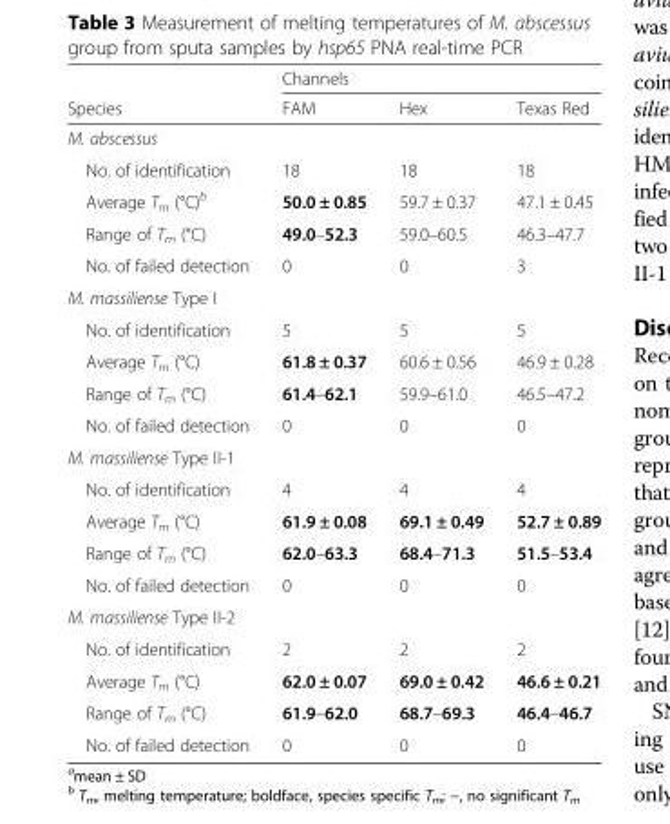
<table><thead><tr><td rowspan="2">Species</td><td colspan="3">Channels</td></tr><tr><td>FAM</td><td>Hex</td><td>Texas Red</td></tr></thead><tbody><tr><td colspan="4">M. abscessus</td></tr><tr><td>No. of identification</td><td>18</td><td>18</td><td>18</td></tr><tr><td>Average T<sub>m</sub> (°C)<sup>b</sup></td><td>50.0 ± 0.85</td><td>59.7 ± 0.37</td><td>47.1 ± 0.45</td></tr><tr><td>Range of T<sub>m</sub> (°C)</td><td>49.0–52.3</td><td>59.0–60.5</td><td>46.3–47.7</td></tr><tr><td>No. of failed detection</td><td>0</td><td>0</td><td>3</td></tr><tr><td colspan="4">M. massiliense Type I</td></tr><tr><td>No. of identification</td><td>5</td><td>5</td><td>5</td></tr><tr><td>Average T<sub>m</sub> (°C)</td><td>61.8 ± 0.37</td><td>60.6 ± 0.56</td><td>46.9 ± 0.28</td></tr><tr><td>Range of T<sub>m</sub> (°C)</td><td>61.4–62.1</td><td>59.9–61.0</td><td>46.5–47.2</td></tr><tr><td>No. of failed detection</td><td>0</td><td>0</td><td>0</td></tr><tr><td colspan="4">M. massiliense Type II-1</td></tr><tr><td>No. of identification</td><td>4</td><td>4</td><td>4</td></tr><tr><td>Average T<sub>m</sub> (°C)</td><td>61.9 ± 0.08</td><td>69.1 ± 0.49</td><td>52.7 ± 0.89</td></tr><tr><td>Range of T<sub>m</sub> (°C)</td><td>62.0–63.3</td><td>68.4–71.3</td><td>51.5–53.4</td></tr><tr><td>No. of failed detection</td><td>0</td><td>0</td><td>0</td></tr><tr><td colspan="4">M. massiliense Type II-2</td></tr><tr><td>No. of identification</td><td>2</td><td>2</td><td>2</td></tr><tr><td>Average T<sub>m</sub> (°C)</td><td>62.0 ± 0.07</td><td>69.0 ± 0.42</td><td>46.6 ± 0.21</td></tr><tr><td>Range of T<sub>m</sub> (°C)</td><td>61.9–62.0</td><td>68.7–69.3</td><td>46.4–46.7</td></tr><tr><td>No. of failed detection</td><td>0</td><td>0</td><td>0</td></tr></tbody></table>